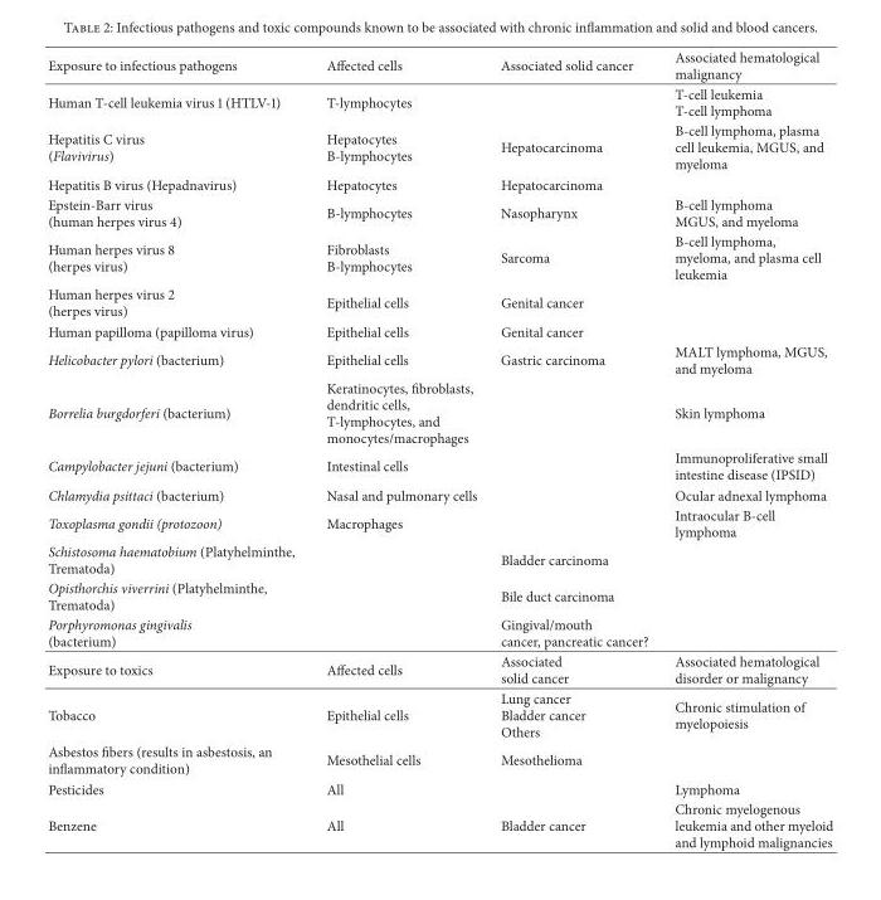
<table><thead><tr><td>Exposure to infectious pathogens</td><td>Affected cells</td><td>Associated solid cancer</td><td>Associated hematological malignancy</td></tr></thead><tbody><tr><td>Human T-cell leukemia virus 1 (HTLV-1)</td><td>T-lymphocytes</td><td></td><td>T-cell leukemia T-cell lymphoma</td></tr><tr><td>Hepatitis C virus (Flavivirus)</td><td>Hepatocytes B-lymphocytes</td><td>Hepatocarcinoma</td><td>B-cell lymphoma, plasma cell leukemia, MGUS, and myeloma</td></tr><tr><td>Hepatitis B virus (Hepadnavirus)</td><td>Hepatocytes</td><td>Hepatocarcinoma</td><td></td></tr><tr><td>Epstein-Barr virus (human herpes virus 4)</td><td>B-lymphocytes</td><td>Nasopharynx</td><td>B-cell lymphoma MGUS, and myeloma</td></tr><tr><td>Human herpes virus 8 (herpes virus)</td><td>Fibroblasts B-lymphocytes</td><td>Sarcoma</td><td>B-cell lymphoma, myeloma, and plasma cell leukemia</td></tr><tr><td>Human herpes virus 2 (herpes virus)</td><td>Epithelial cells</td><td>Genital cancer</td><td></td></tr><tr><td>Human papilloma (papilloma virus)</td><td>Epithelial cells</td><td>Genital cancer</td><td></td></tr><tr><td>Helicobacter pylori (bacterium)</td><td>Epithelial cells</td><td>Gastric carcinoma</td><td>MALT lymphoma, MGUS, and myeloma</td></tr><tr><td>Borrelia burgdorferi (bacterium)</td><td>Keratinocytes, fibroblasts, dendritic cells, T-lymphocytes, and monocytes/macrophages</td><td></td><td>Skin lymphoma</td></tr><tr><td>Campylobacter jejuni (bacterium)</td><td>Intestinal cells</td><td></td><td>Immunoproliferative small intestine disease (IPSID)</td></tr><tr><td>Chlamydia psittaci (bacterium)</td><td>Nasal and pulmonary cells</td><td></td><td>Ocular adnexal lymphoma</td></tr><tr><td>Toxoplasma gondii (protozoon)</td><td>Macrophages</td><td></td><td>Intraocular B-cell lymphoma</td></tr><tr><td>Schistosoma haematobium (Platyhelminthe, Trematoda)</td><td></td><td>Bladder carcinoma</td><td></td></tr><tr><td>Opisthorchis viverrini (Platyhelminthe, Trematoda)</td><td></td><td>Bile duct carcinoma</td><td></td></tr><tr><td>Porphyromonas gingivalis (bacterium)</td><td></td><td>Gingival/mouth cancer, pancreatic cancer?</td><td></td></tr><tr><td>Exposure to toxics</td><td>Affected cells</td><td>Associated solid cancer</td><td>Associated hematological disorder or malignancy</td></tr><tr><td>Tobacco</td><td>Epithelial cells</td><td>Lung cancer Bladder cancer Others</td><td>Chronic stimulation of myelopoiesis</td></tr><tr><td>Asbestos fibers (results in asbestosis, an inflammatory condition)</td><td>Mesothelial cells</td><td>Mesothelioma</td><td></td></tr><tr><td>Pesticides</td><td>All</td><td></td><td>Lymphoma</td></tr><tr><td>Benzene</td><td>All</td><td>Bladder cancer</td><td>Chronic myelogenous leukemia and other myeloid and lymphoid malignancies</td></tr></tbody></table>